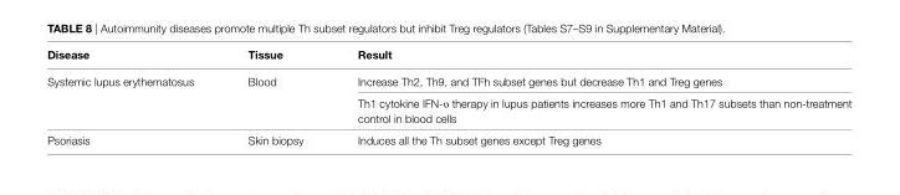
<table><thead><tr><td>Disease</td><td>Tissue</td><td>result</td></tr></thead><tbody><tr><td rowspan="2">Systemic lupus erythematosus</td><td rowspan="2">Blood</td><td>Increase Th2, Th9, and TFh subset genes but decrease Th1 and Treg genes</td></tr><tr><td>Th1 cytokine IFN-υ therapy in lupus patients increases more Th1 and Th17 subsets than non-treatment control in blood cells</td></tr><tr><td>Psoriasis</td><td>Skin biopsy</td><td>Induces all the Th subset genes except Treg genes</td></tr></tbody></table>